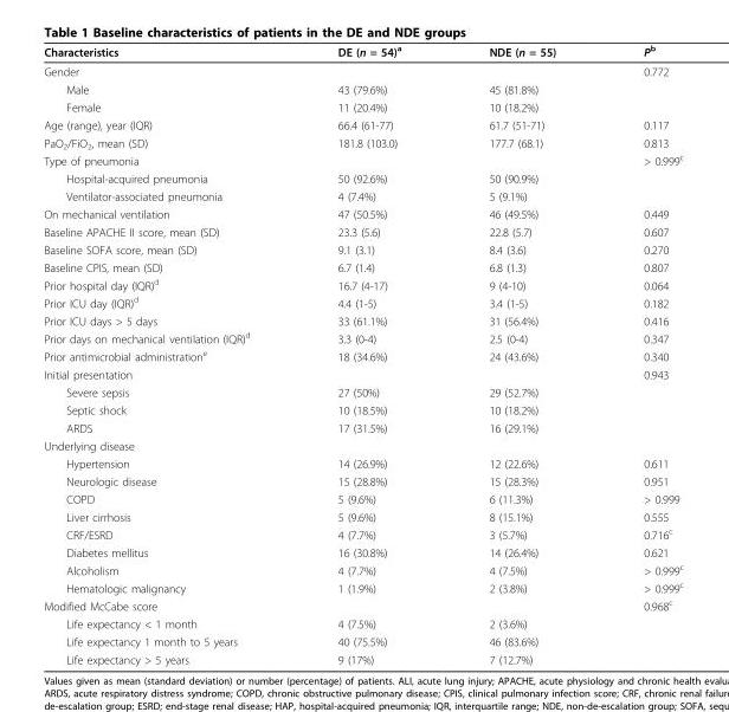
<table><thead><tr><td>Characteristics</td><td>DE (n = 54)<sup>a</sup></td><td>NDE (n = 55)</td><td>P<sup>b</sup></td></tr></thead><tbody><tr><td>Gender</td><td></td><td></td><td>0.772</td></tr><tr><td>Male</td><td>43 (79.6%)</td><td>45 (81.8%)</td><td></td></tr><tr><td>Female</td><td>11 (20.4%)</td><td>10 (18.2%)</td><td></td></tr><tr><td>Age (range), year (IQR)</td><td>66.4 (61-77)</td><td>61.7 (51-71)</td><td>0.117</td></tr><tr><td>PaO<sub>2</sub>/FiO<sub>2</sub>, mean (SD)</td><td>181.8 (103.0)</td><td>177.7 (68.1)</td><td>0.813</td></tr><tr><td>Type of pneumonia</td><td></td><td></td><td>&gt; 0.999<sup>c</sup></td></tr><tr><td>Hospital-acquired pneumonia</td><td>50 (92.6%)</td><td>50 (90.9%)</td><td></td></tr><tr><td>Ventilator-associated pneumonia</td><td>4 (7.4%)</td><td>5 (9.1%)</td><td></td></tr><tr><td>On mechanical ventilation</td><td>47 (50.5%)</td><td>46 (49.5%)</td><td>0.449</td></tr><tr><td>Baseline APACHE II score, mean (SD)</td><td>23.3 (5.6)</td><td>22.8 (5.7)</td><td>0.607</td></tr><tr><td>Baseline SOFA score, mean (SD)</td><td>9.1 (3.1)</td><td>8.4 (3.6)</td><td>0.270</td></tr><tr><td>Baseline CPIS, mean (SD)</td><td>6.7 (1.4)</td><td>6.8 (1.3)</td><td>0.807</td></tr><tr><td>Prior hospital day (IQR)<sup>d</sup></td><td>16.7 (4-17)</td><td>9 (4-10)</td><td>0.064</td></tr><tr><td>Prior ICU day (IQR)<sup>d</sup></td><td>4.4 (1-5)</td><td>3.4 (1-5)</td><td>0.182</td></tr><tr><td>Prior ICU days &gt; 5 days</td><td>33 (61.1%)</td><td>31 (56.4%)</td><td>0.416</td></tr><tr><td>Prior days on mechanical ventilation (IQR)<sup>d</sup></td><td>3.3 (0-4)</td><td>2.5 (0-4)</td><td>0.347</td></tr><tr><td>Prior antimicrobial administration<sup>e</sup></td><td>18 (34.6%)</td><td>24 (43.6%)</td><td>0.340</td></tr><tr><td>Initial presentation</td><td></td><td></td><td>0.943</td></tr><tr><td>Severe sepsis</td><td>27 (50%)</td><td>29 (52.7%)</td><td></td></tr><tr><td>Septic shock</td><td>10 (18.5%)</td><td>10 (18.2%)</td><td></td></tr><tr><td>ARDS</td><td>17 (31.5%)</td><td>16 (29.1%)</td><td></td></tr><tr><td colspan="4">Underlying disease</td></tr><tr><td>Hypertension</td><td>14 (26.9%)</td><td>12 (22.6%)</td><td>0.611</td></tr><tr><td>Neurologic disease</td><td>15 (28.8%)</td><td>15 (28.3%)</td><td>0.951</td></tr><tr><td>COPD</td><td>5 (9.6%)</td><td>6 (11.3%)</td><td>&gt; 0.999</td></tr><tr><td>Liver cirrhosis</td><td>5 (9.6%)</td><td>8 (15.1%)</td><td>0.555</td></tr><tr><td>CRF/ESRD</td><td>4 (7.7%)</td><td>3 (5.7%)</td><td>0.716<sup>c</sup></td></tr><tr><td>Diabetes mellitus</td><td>16 (30.8%)</td><td>14 (26.4%)</td><td>0.621</td></tr><tr><td>Alcoholism</td><td>4 (7.7%)</td><td>4 (7.5%)</td><td>&gt; 0.999<sup>c</sup></td></tr><tr><td>Hematologic malignancy</td><td>1 (1.9%)</td><td>2 (3.8%)</td><td>&gt; 0.999<sup>c</sup></td></tr><tr><td>Modified McCabe score</td><td></td><td></td><td>0.968<sup>c</sup></td></tr><tr><td>Life expectancy &lt; 1 month</td><td>4 (7.5%)</td><td>2 (3.6%)</td><td></td></tr><tr><td>Life expectancy 1 month to 5 years</td><td>40 (75.5%)</td><td>46 (83.6%)</td><td></td></tr><tr><td>Life expectancy &gt; 5 years</td><td>9 (17%)</td><td>7 (12.7%)</td><td></td></tr></tbody></table>